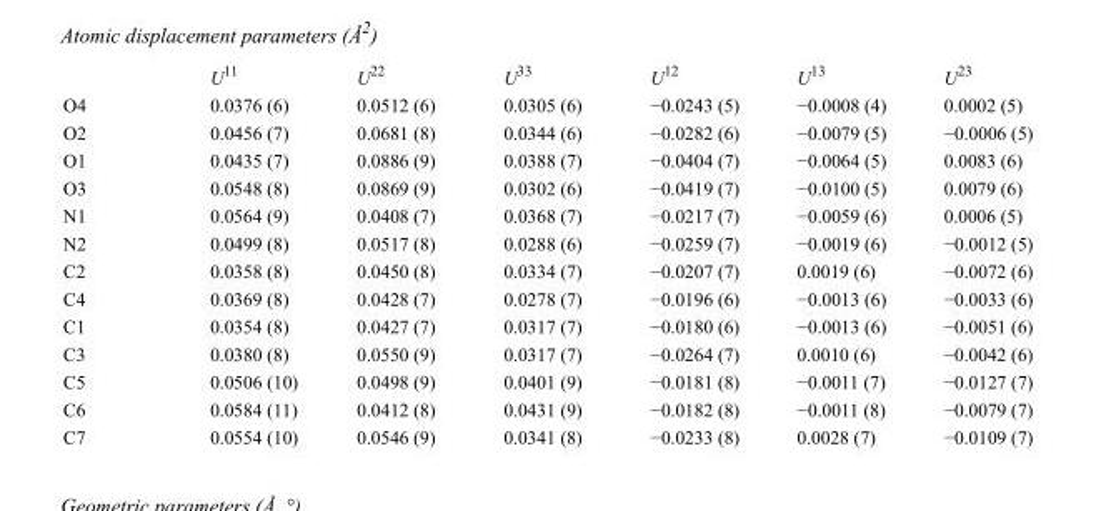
<table><thead><tr><td></td><td>U<sup>11</sup></td><td>U<sup>22</sup></td><td>U<sup>33</sup></td><td>U<sup>12</sup></td><td>U<sup>13</sup></td><td>U<sup>23</sup></td></tr></thead><tbody><tr><td>O4</td><td>0.0376 (6)</td><td>0.0512 (6)</td><td>0.0305 (6)</td><td>−0.0243 (5)</td><td>−0.0008 (4)</td><td>0.0002 (5)</td></tr><tr><td>O2</td><td>0.0456 (7)</td><td>0.0681 (8)</td><td>0.0344 (6)</td><td>−0.0282 (6)</td><td>−0.0079 (5)</td><td>−0.0006 (5)</td></tr><tr><td>O1</td><td>0.0435 (7)</td><td>0.0886 (9)</td><td>0.0388 (7)</td><td>−0.0404 (7)</td><td>−0.0064 (5)</td><td>0.0083 (6)</td></tr><tr><td>O3</td><td>0.0548 (8)</td><td>0.0869 (9)</td><td>0.0302 (6)</td><td>−0.0419 (7)</td><td>−0.0100 (5)</td><td>0.0079 (6)</td></tr><tr><td>N1</td><td>0.0564 (9)</td><td>0.0408 (7)</td><td>0.0368 (7)</td><td>−0.0217 (7)</td><td>−0.0059 (6)</td><td>0.0006 (5)</td></tr><tr><td>N2</td><td>0.0499 (8)</td><td>0.0517 (8)</td><td>0.0288 (6)</td><td>−0.0259 (7)</td><td>−0.0019 (6)</td><td>−0.0012 (5)</td></tr><tr><td>C2</td><td>0.0358 (8)</td><td>0.0450 (8)</td><td>0.0334 (7)</td><td>−0.0207 (7)</td><td>0.0019 (6)</td><td>−0.0072 (6)</td></tr><tr><td>C4</td><td>0.0369 (8)</td><td>0.0428 (7)</td><td>0.0278 (7)</td><td>−0.0196 (6)</td><td>−0.0013 (6)</td><td>−0.0033 (6)</td></tr><tr><td>C1</td><td>0.0354 (8)</td><td>0.0427 (7)</td><td>0.0317 (7)</td><td>−0.0180 (6)</td><td>−0.0013 (6)</td><td>−0.0051 (6)</td></tr><tr><td>C3</td><td>0.0380 (8)</td><td>0.0550 (9)</td><td>0.0317 (7)</td><td>−0.0264 (7)</td><td>0.0010 (6)</td><td>−0.0042 (6)</td></tr><tr><td>C5</td><td>0.0506 (10)</td><td>0.0498 (9)</td><td>0.0401 (9)</td><td>−0.0181 (8)</td><td>−0.0011 (7)</td><td>−0.0127 (7)</td></tr><tr><td>C6</td><td>0.0584 (11)</td><td>0.0412 (8)</td><td>0.0431 (9)</td><td>−0.0182 (8)</td><td>−0.0011 (8)</td><td>−0.0079 (7)</td></tr><tr><td>C7</td><td>0.0554 (10)</td><td>0.0546 (9)</td><td>0.0341 (8)</td><td>−0.0233 (8)</td><td>0.0028 (7)</td><td>−0.0109 (7)</td></tr></tbody></table>